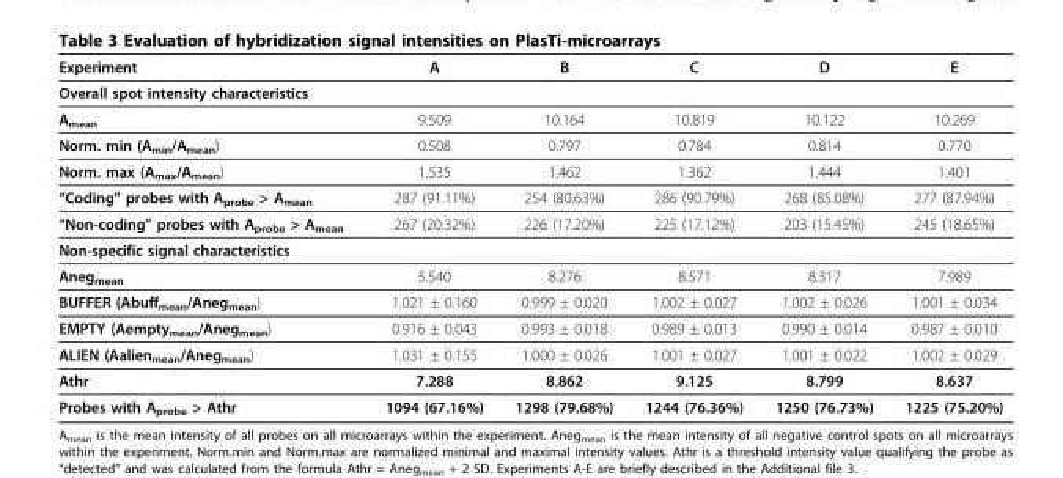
<table><thead><tr><td>Experiment</td><td>A</td><td>B</td><td>C</td><td>D</td><td>E</td></tr></thead><tbody><tr><td colspan="6">Overall spot intensity characteristics</td></tr><tr><td>A<sub>mean</sub></td><td>9.509</td><td>10.164</td><td>10.819</td><td>10.122</td><td>10.269</td></tr><tr><td>Norm. min (A<sub>min</sub>/A<sub>mean</sub>)</td><td>0.508</td><td>0.797</td><td>0.784</td><td>0.814</td><td>0.770</td></tr><tr><td>Norm. max (A<sub>max</sub>/A<sub>mean</sub>)</td><td>1.535</td><td>1.462</td><td>1.362</td><td>1.444</td><td>1.401</td></tr><tr><td>“Coding” probes with Aprobe &gt; Amean</td><td>287 (91.11%)</td><td>254 (80.63%)</td><td>286 (90.79%)</td><td>268 (85.08%)</td><td>277 (87.94%)</td></tr><tr><td>“Non-coding” probes with Aprobe &gt; Amean</td><td>267 (20.32%)</td><td>226 (17.20%)</td><td>225 (17.12%)</td><td>203 (15.45%)</td><td>245 (18.65%)</td></tr><tr><td colspan="6">Non-specific signal characteristics</td></tr><tr><td>Aneg<sub>mean</sub></td><td>5.540</td><td>8.276</td><td>8.571</td><td>8.317</td><td>7.989</td></tr><tr><td>BUFFER (Abuff<sub>mean</sub>/Aneg<sub>mean</sub>)</td><td>1.021 ± 0.160</td><td>0.999 ± 0.020</td><td>1.002 ± 0.027</td><td>1.002 ± 0.026</td><td>1.001 ± 0.034</td></tr><tr><td>EMPTY (Aempty<sub>mean</sub>/Aneg<sub>mean</sub>)</td><td>0.916 ± 0.043</td><td>0.993 ± 0.018</td><td>0.989 ± 0.013</td><td>0.990 ± 0.014</td><td>0.987 ± 0.010</td></tr><tr><td>ALIEN (Aalien<sub>mean</sub>/Aneg<sub>mean</sub>)</td><td>1.031 ± 0.155</td><td>1.000 ± 0.026</td><td>1.001 ± 0.027</td><td>1.001 ± 0.022</td><td>1.002 ± 0.029</td></tr><tr><td>Athr</td><td>7.288</td><td>8.862</td><td>9.125</td><td>8.799</td><td>8.637</td></tr><tr><td>Probes with A<sub>probe</sub> &gt; Athr</td><td>1094 (67.16%)</td><td>1298 (79.68%)</td><td>1244 (76.36%)</td><td>1250 (76.73%)</td><td>1225 (75.20%)</td></tr></tbody></table>